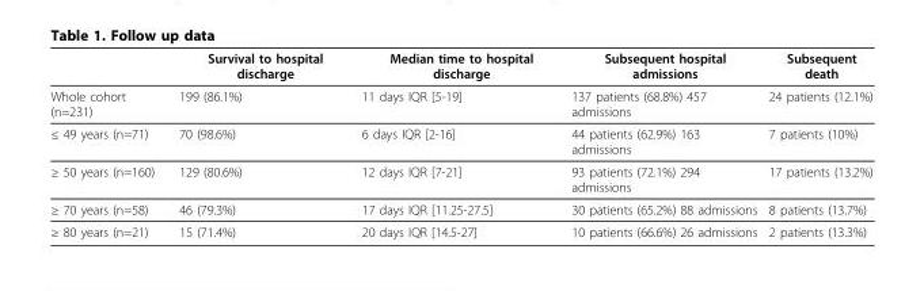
<table><thead><tr><td></td><td>Survival to hospital discharge</td><td>Median time to hospital discharge</td><td>Subsequent hospital admissions</td><td>Subsequent death</td></tr></thead><tbody><tr><td>Whole cohort (n=231)</td><td>199 (86.1%)</td><td>11 days IQR [5-19]</td><td>137 patients (68.8%) 457 admissions</td><td>24 patients (12.1%)</td></tr><tr><td>≤ 49 years (n=71)</td><td>70 (98.6%)</td><td>6 days IQR [2-16]</td><td>44 patients (62.9%) 163 admissions</td><td>7 patients (10%)</td></tr><tr><td>≥ 50 years (n=160)</td><td>129 (80.6%)</td><td>12 days IQR [7-21]</td><td>93 patients (72.1%) 294 admissions</td><td>17 patients (13.2%)</td></tr><tr><td>≥ 70 years (n=58)</td><td>46 (79.3%)</td><td>17 days IQR [11.25-27.5]</td><td>30 patients (65.2%) 88 admissions</td><td>8 patients (13.7%)</td></tr><tr><td>≥ 80 years (n=21)</td><td>15 (71.4%)</td><td>20 days IQR [14.5-27]</td><td>10 patients (66.6%) 26 admissions</td><td>2 patients (13.3%)</td></tr></tbody></table>